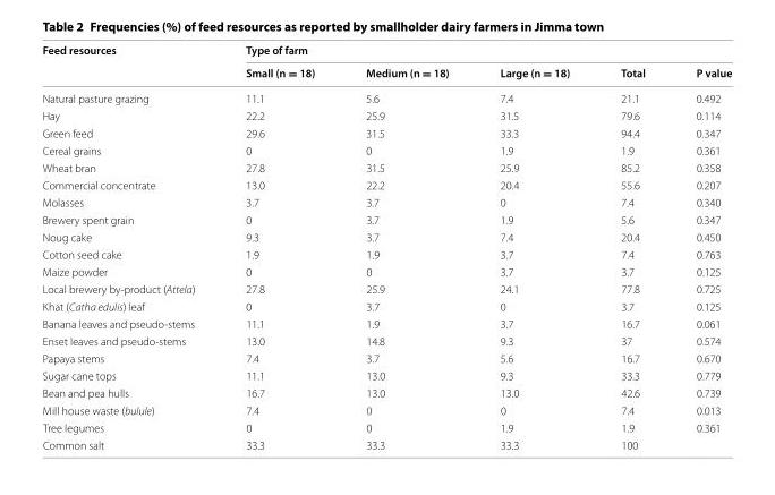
<table><thead><tr><td rowspan="2">Feed resources</td><td colspan="5">Type of farm</td></tr><tr><td>Small (n = 18)</td><td>Medium (n = 18)</td><td>Large (n = 18)</td><td>Total</td><td>P value</td></tr></thead><tbody><tr><td>Natural pasture grazing</td><td>11.1</td><td>5.6</td><td>7.4</td><td>21.1</td><td>0.492</td></tr><tr><td>Hay</td><td>22.2</td><td>25.9</td><td>31.5</td><td>79.6</td><td>0.114</td></tr><tr><td>Green feed</td><td>29.6</td><td>31.5</td><td>33.3</td><td>94.4</td><td>0.347</td></tr><tr><td>Cereal grains</td><td>0</td><td>0</td><td>1.9</td><td>1.9</td><td>0.361</td></tr><tr><td>Wheat bran</td><td>27.8</td><td>31.5</td><td>25.9</td><td>85.2</td><td>0.358</td></tr><tr><td>Commercial concentrate</td><td>13.0</td><td>22.2</td><td>20.4</td><td>55.6</td><td>0.207</td></tr><tr><td>Molasses</td><td>3.7</td><td>3.7</td><td>0</td><td>7.4</td><td>0.340</td></tr><tr><td>Brewery spent grain</td><td>0</td><td>3.7</td><td>1.9</td><td>5.6</td><td>0.347</td></tr><tr><td>Noug cake</td><td>9.3</td><td>3.7</td><td>7.4</td><td>20.4</td><td>0.450</td></tr><tr><td>Cotton seed cake</td><td>1.9</td><td>1.9</td><td>3.7</td><td>7.4</td><td>0.763</td></tr><tr><td>Maize powder</td><td>0</td><td>0</td><td>3.7</td><td>3.7</td><td>0.125</td></tr><tr><td>Local brewery by-product (Attela)</td><td>27.8</td><td>25.9</td><td>24.1</td><td>77.8</td><td>0.725</td></tr><tr><td>Khat (Catha edulis) leaf</td><td>0</td><td>3.7</td><td>0</td><td>3.7</td><td>0.125</td></tr><tr><td>Banana leaves and pseudo-stems</td><td>11.1</td><td>1.9</td><td>3.7</td><td>16.7</td><td>0.061</td></tr><tr><td>Enset leaves and pseudo-stems</td><td>13.0</td><td>14.8</td><td>9.3</td><td>37</td><td>0.574</td></tr><tr><td>Papaya stems</td><td>7.4</td><td>3.7</td><td>5.6</td><td>16.7</td><td>0.670</td></tr><tr><td>Sugar cane tops</td><td>11.1</td><td>13.0</td><td>9.3</td><td>33.3</td><td>0.779</td></tr><tr><td>Bean and pea hulls</td><td>16.7</td><td>13.0</td><td>13.0</td><td>42.6</td><td>0.739</td></tr><tr><td>Mill house waste (bulule)</td><td>7.4</td><td>0</td><td>0</td><td>7.4</td><td>0.013</td></tr><tr><td>Tree legumes</td><td>0</td><td>0</td><td>1.9</td><td>1.9</td><td>0.361</td></tr><tr><td>Common salt</td><td>33.3</td><td>33.3</td><td>33.3</td><td>100</td><td></td></tr></tbody></table>